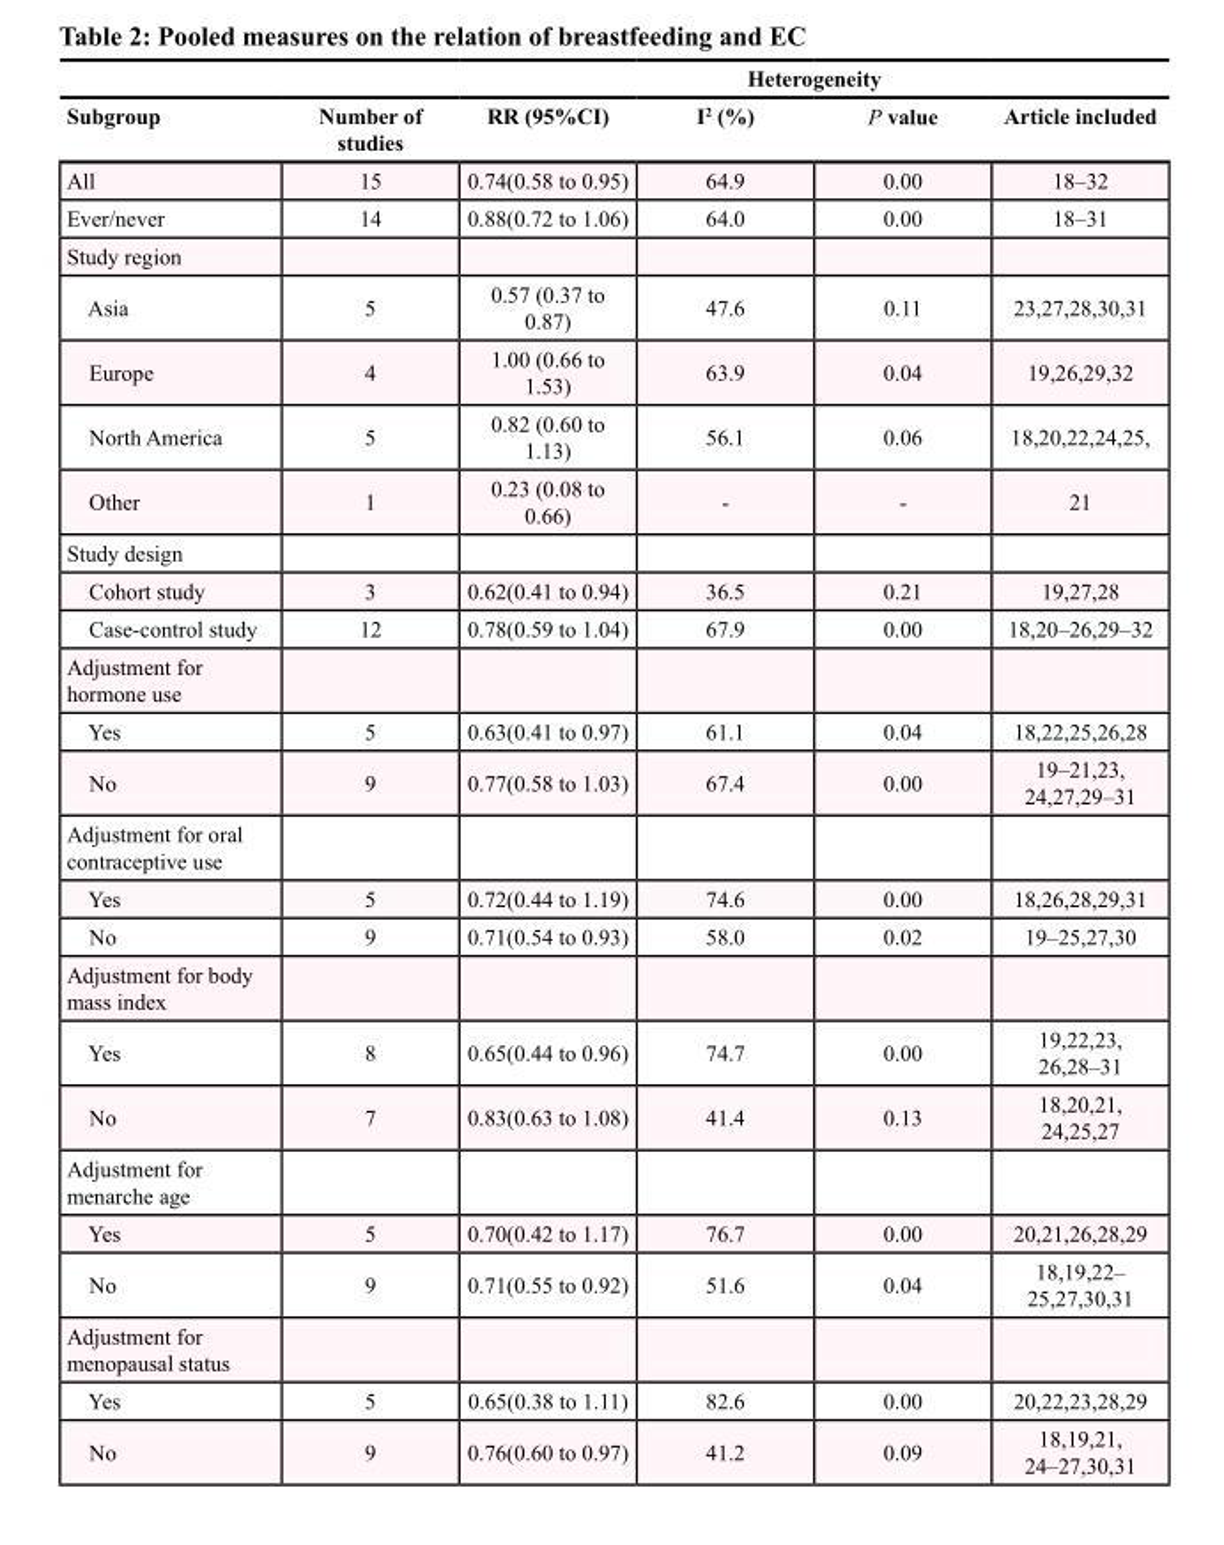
<table><thead><tr><td rowspan="2">Subgroup</td><td rowspan="2">Number of studies</td><td rowspan="2">RR (95%CI)</td><td colspan="2">Heterogeneity</td><td rowspan="2">Article included</td></tr><tr><td>I<sup>2</sup> (%)</td><td>P value</td></tr></thead><tbody><tr><td>All</td><td>15</td><td>0.74(0.58 to 0.95)</td><td>64.9</td><td>0.00</td><td>18–32</td></tr><tr><td>Ever/never</td><td>14</td><td>0.88(0.72 to 1.06)</td><td>64.0</td><td>0.00</td><td>18–31</td></tr><tr><td colspan="6">Study region</td></tr><tr><td>Asia</td><td>5</td><td>0.57 (0.37 to 0.87)</td><td>47.6</td><td>0.11</td><td>23,27,28,30,31</td></tr><tr><td>Europe</td><td>4</td><td>1.00 (0.66 to 1.53)</td><td>63.9</td><td>0.04</td><td>19,26,29,32</td></tr><tr><td>North America</td><td>5</td><td>0.82 (0.60 to 1.13)</td><td>56.1</td><td>0.06</td><td>18,20,22,24,25,</td></tr><tr><td>Other</td><td>1</td><td>0.23 (0.08 to 0.66)</td><td>-</td><td>-</td><td>21</td></tr><tr><td colspan="6">Study design</td></tr><tr><td>Cohort study</td><td>3</td><td>0.62(0.41 to 0.94)</td><td>36.5</td><td>0.21</td><td>19,27,28</td></tr><tr><td>Case-control study</td><td>12</td><td>0.78(0.59 to 1.04)</td><td>67.9</td><td>0.00</td><td>18,20–26,29–32</td></tr><tr><td colspan="6">Adjustment for hormone use</td></tr><tr><td>Yes</td><td>5</td><td>0.63(0.41 to 0.97)</td><td>61.1</td><td>0.04</td><td>18,22,25,26,28</td></tr><tr><td>No</td><td>9</td><td>0.77(0.58 to 1.03)</td><td>67.4</td><td>0.00</td><td>19–21,23, 24,27,29–31</td></tr><tr><td colspan="6">Adjustment for oral contraceptive use</td></tr><tr><td>Yes</td><td>5</td><td>0.72(0.44 to 1.19)</td><td>74.6</td><td>0.00</td><td>18,26,28,29,31</td></tr><tr><td>No</td><td>9</td><td>0.71(0.54 to 0.93)</td><td>58.0</td><td>0.02</td><td>19–25,27,30</td></tr><tr><td colspan="6">Adjustment for body mass index</td></tr><tr><td>Yes</td><td>8</td><td>0.65(0.44 to 0.96)</td><td>74.7</td><td>0.00</td><td>19,22,23, 26,28–31</td></tr><tr><td>No</td><td>7</td><td>0.83(0.63 to 1.08)</td><td>41.4</td><td>0.13</td><td>18,20,21, 24,25,27</td></tr><tr><td colspan="6">Adjustment for menarche age</td></tr><tr><td>Yes</td><td>5</td><td>0.70(0.42 to 1.17)</td><td>76.7</td><td>0.00</td><td>20,21,26,28,29</td></tr><tr><td>No</td><td>9</td><td>0.71(0.55 to 0.92)</td><td>51.6</td><td>0.04</td><td>18,19,22– 25,27,30,31</td></tr><tr><td colspan="6">Adjustment for menopausal status</td></tr><tr><td>Yes</td><td>5</td><td>0.65(0.38 to 1.11)</td><td>82.6</td><td>0.00</td><td>20,22,23,28,29</td></tr><tr><td>No</td><td>9</td><td>0.76(0.60 to 0.97)</td><td>41.2</td><td>0.09</td><td>18,19,21, 24–27,30,31</td></tr></tbody></table>